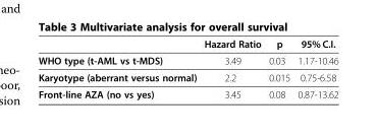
<table><thead><tr><td></td><td>Hazard Ratio</td><td>p</td><td>95% C.I.</td></tr></thead><tbody><tr><td>WHO type (t-AML vs t-MDS)</td><td>3.49</td><td>0.03</td><td>1.17-10.46</td></tr><tr><td>Karyotype (aberrant versus normal)</td><td>2.2</td><td>0.015</td><td>0.75-6.58</td></tr><tr><td>Front-line AZA (no vs yes)</td><td>3.45</td><td>0.08</td><td>0.87-13.62</td></tr></tbody></table>